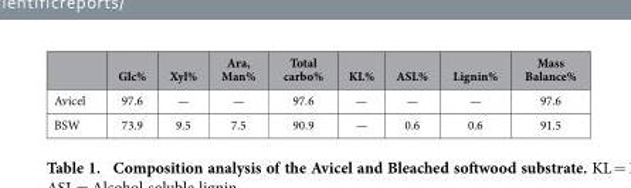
<table><thead><tr><td></td><td>Glc%</td><td>Xyl%</td><td>Ara, Man%</td><td>Total carbo%</td><td>KL%</td><td>ASL%</td><td>Lignin%</td><td>Mass Balance%</td></tr></thead><tbody><tr><td>Avicel</td><td>97.6</td><td>—</td><td>—</td><td>97.6</td><td>—</td><td>—</td><td>—</td><td>97.6</td></tr><tr><td>BSW</td><td>73.9</td><td>9.5</td><td>7.5</td><td>90.9</td><td>—</td><td>0.6</td><td>0.6</td><td>91.5</td></tr></tbody></table>